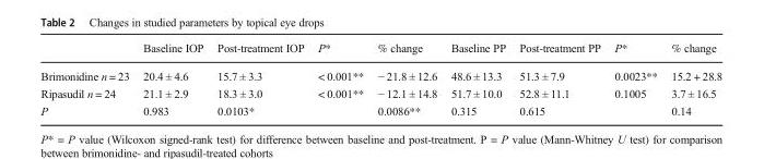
<table><thead><tr><td></td><td>Baseline IOP</td><td>Post-treatment IOP</td><td>P*</td><td>% change</td><td>Baseline PP</td><td>Post-treatment PP</td><td>P*</td><td>% change</td></tr></thead><tbody><tr><td>Brimonidine n = 23</td><td>20.4 ± 4.6</td><td>15.7 ± 3.3</td><td>&lt; 0.001**</td><td>− 21.8 ± 12.6</td><td>48.6 ± 13.3</td><td>51.3 ± 7.9</td><td>0.0023**</td><td>15.2 + 28.8</td></tr><tr><td>Ripasudil n = 24</td><td>21.1 ± 2.9</td><td>18.3 ± 3.0</td><td>&lt; 0.001**</td><td>− 12.1 ± 14.8</td><td>51.7 ± 10.0</td><td>52.8 ± 11.1</td><td>0.1005</td><td>3.7 ± 16.5</td></tr><tr><td>P</td><td>0.983</td><td>0.0103*</td><td></td><td>0.0086**</td><td>0.315</td><td>0.615</td><td></td><td>0.14</td></tr></tbody></table>